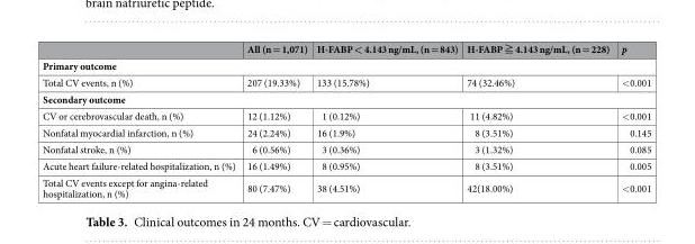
<table><thead><tr><td></td><td>All (n = 1,071)</td><td>H-FABP &lt; 4.143 ng/mL, (n = 843)</td><td>H-FABP ≧ 4.143 ng/mL, (n = 228)</td><td>p</td></tr></thead><tbody><tr><td colspan="5">Primary outcome</td></tr><tr><td>Total CV events, n (%)</td><td>207 (19.33%)</td><td>133 (15.78%)</td><td>74 (32.46%)</td><td>&lt;0.001</td></tr><tr><td colspan="5">Secondary outcome</td></tr><tr><td>CV or cerebrovascular death, n (%)</td><td>12 (1.12%)</td><td>1 (0.12%)</td><td>11 (4.82%)</td><td>&lt;0.001</td></tr><tr><td>Nonfatal myocardial infarction, n (%)</td><td>24 (2.24%)</td><td>16 (1.9%)</td><td>8 (3.51%)</td><td>0.145</td></tr><tr><td>Nonfatal stroke, n (%)</td><td>6 (0.56%)</td><td>3 (0.36%)</td><td>3 (1.32%)</td><td>0.085</td></tr><tr><td>Acute heart failure-related hospitalization, n (%)</td><td>16 (1.49%)</td><td>8 (0.95%)</td><td>8 (3.51%)</td><td>0.005</td></tr><tr><td>Total CV events except for angina-related hospitalization, n (%)</td><td>80 (7.47%)</td><td>38 (4.51%)</td><td>42(18.00%)</td><td>&lt;0.001</td></tr></tbody></table>